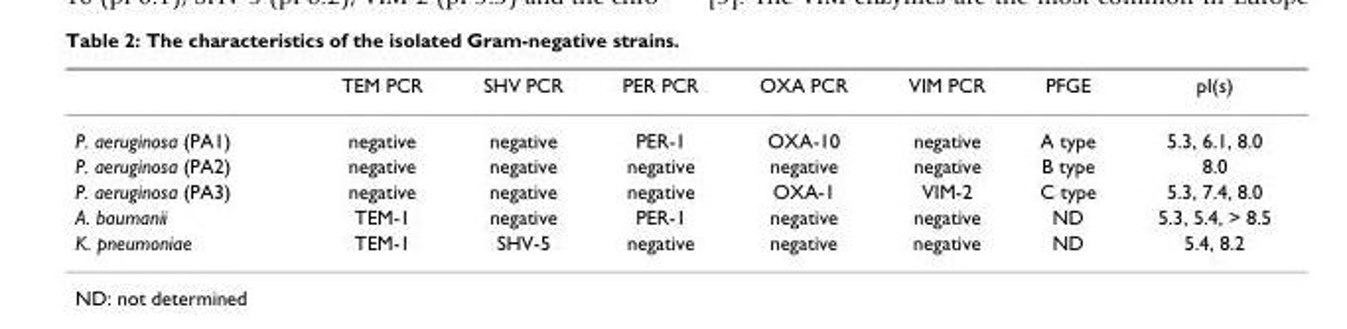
<table><thead><tr><td></td><td>TEM PCR</td><td>SHV PCR</td><td>PER PCR</td><td>OXA PCR</td><td>VIM PCR</td><td>PFGE</td><td>pI(s)</td></tr></thead><tbody><tr><td>P. aeruginosa (PA1)</td><td>negative</td><td>negative</td><td>PER-1</td><td>OXA-10</td><td>negative</td><td>A type</td><td>5.3, 6.1, 8.0</td></tr><tr><td>P. aeruginosa (PA2)</td><td>negative</td><td>negative</td><td>negative</td><td>negative</td><td>negative</td><td>B type</td><td>8.0</td></tr><tr><td>P. aeruginosa (PA3)</td><td>negative</td><td>negative</td><td>negative</td><td>OXA-1</td><td>VIM-2</td><td>C type</td><td>5.3, 7.4, 8.0</td></tr><tr><td>A. baumanii</td><td>TEM-1</td><td>negative</td><td>PER-1</td><td>negative</td><td>negative</td><td>ND</td><td>5.3, 5.4, &gt; 8.5</td></tr><tr><td>K. pneumoniae</td><td>TEM-1</td><td>SHV-5</td><td>negative</td><td>negative</td><td>negative</td><td>ND</td><td>5.4, 8.2</td></tr></tbody></table>